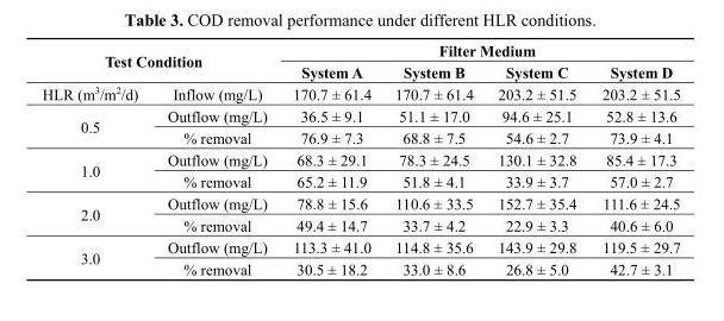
<table><thead><tr><td rowspan="2" colspan="2">Test Condition</td><td colspan="4">Filter Medium</td></tr><tr><td rowspan="2">System A 170.7 ± 61.4</td><td rowspan="2">System B 170.7 ± 61.4</td><td rowspan="2">System C 203.2 ± 51.5</td><td rowspan="2">System D 203.2 ± 51.5</td></tr><tr><td>HLR (m<sup>3</sup>/m<sup>2</sup>/d)</td><td>Inflow (mg/L)</td></tr></thead><tbody><tr><td rowspan="2">0.5</td><td>Outflow (mg/L)</td><td>36.5 ± 9.1</td><td>51.1 ± 17.0</td><td>94.6 ± 25.1</td><td>52.8 ± 13.6</td></tr><tr><td>% removal</td><td>76.9 ± 7.3</td><td>68.8 ± 7.5</td><td>54.6 ± 2.7</td><td>73.9 ± 4.1</td></tr><tr><td rowspan="2">1.0</td><td>Outflow (mg/L)</td><td>68.3 ± 29.1</td><td>78.3 ± 24.5</td><td>130.1 ± 32.8</td><td>85.4 ± 17.3</td></tr><tr><td>% removal</td><td>65.2 ± 11.9</td><td>51.8 ± 4.1</td><td>33.9 ± 3.7</td><td>57.0 ± 2.7</td></tr><tr><td rowspan="2">2.0</td><td>Outflow (mg/L)</td><td>78.8 ± 15.6</td><td>110.6 ± 33.5</td><td>152.7 ± 35.4</td><td>111.6 ± 24.5</td></tr><tr><td>% removal</td><td>49.4 ± 14.7</td><td>33.7 ± 4.2</td><td>22.9 ± 3.3</td><td>40.6 ± 6.0</td></tr><tr><td rowspan="2">3.0</td><td>Outflow (mg/L)</td><td>113.3 ± 41.0</td><td>114.8 ± 35.6</td><td>143.9 ± 29.8</td><td>119.5 ± 29.7</td></tr><tr><td>% removal</td><td>30.5 ± 18.2</td><td>33.0 ± 8.6</td><td>26.8 ± 5.0</td><td>42.7 ± 3.1</td></tr></tbody></table>